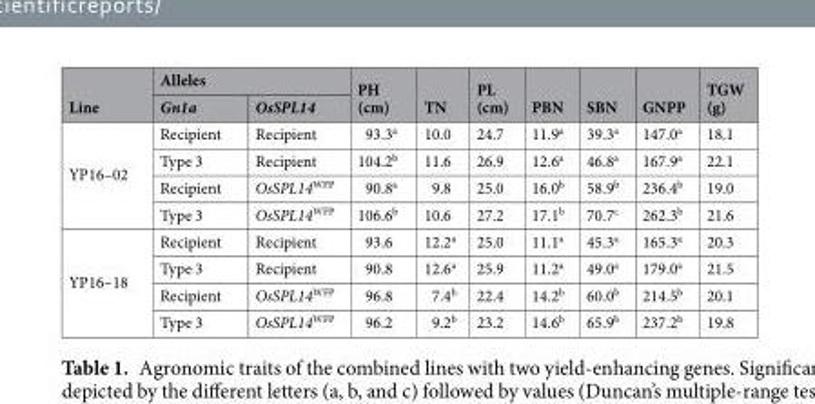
<table><thead><tr><td rowspan="2">Line</td><td colspan="2">Alleles</td><td rowspan="2">PH (cm)</td><td rowspan="2">TN</td><td rowspan="2">PL (cm)</td><td rowspan="2">PBN</td><td rowspan="2">SBN</td><td rowspan="2">GNPP</td><td rowspan="2">TGW (g)</td></tr><tr><td>Gn1a</td><td>OsSPL14</td></tr></thead><tbody><tr><td rowspan="4">YP16–02</td><td>Recipient</td><td>Recipient</td><td>93.3<sup>a</sup></td><td>10.0</td><td>24.7</td><td>11.9<sup>a</sup></td><td>39.3<sup>a</sup></td><td>147.0<sup>a</sup></td><td>18.1</td></tr><tr><td>Type 3</td><td>Recipient</td><td>104.2<sup>b</sup></td><td>11.6</td><td>26.9</td><td>12.6<sup>a</sup></td><td>46.8<sup>a</sup></td><td>167.9<sup>a</sup></td><td>22.1</td></tr><tr><td>Recipient</td><td>OsSPL14<sup>WFP</sup></td><td>90.8<sup>a</sup></td><td>9.8</td><td>25.0</td><td>16.0<sup>b</sup></td><td>58.9<sup>b</sup></td><td>236.4<sup>b</sup></td><td>19.0</td></tr><tr><td>Type 3</td><td>OsSPL14<sup>WFP</sup></td><td>106.6<sup>b</sup></td><td>10.6</td><td>27.2</td><td>17.1<sup>b</sup></td><td>70.7<sup>c</sup></td><td>262.3<sup>b</sup></td><td>21.6</td></tr><tr><td rowspan="4">YP16–18</td><td>Recipient</td><td>Recipient</td><td>93.6</td><td>12.2<sup>a</sup></td><td>25.0</td><td>11.1<sup>a</sup></td><td>45.3<sup>a</sup></td><td>165.3<sup>a</sup></td><td>20.3</td></tr><tr><td>Type 3</td><td>Recipient</td><td>90.8</td><td>12.6<sup>a</sup></td><td>25.9</td><td>11.2<sup>a</sup></td><td>49.0<sup>a</sup></td><td>179.0<sup>a</sup></td><td>21.5</td></tr><tr><td>Recipient</td><td>OsSPL14<sup>WFP</sup></td><td>96.8</td><td>7.4<sup>b</sup></td><td>22.4</td><td>14.2<sup>b</sup></td><td>60.0<sup>b</sup></td><td>214.5<sup>b</sup></td><td>20.1</td></tr><tr><td>Type 3</td><td>OsSPL14<sup>WFP</sup></td><td>96.2</td><td>9.2<sup>b</sup></td><td>23.2</td><td>14.6<sup>b</sup></td><td>65.9<sup>b</sup></td><td>237.2<sup>b</sup></td><td>19.8</td></tr></tbody></table>